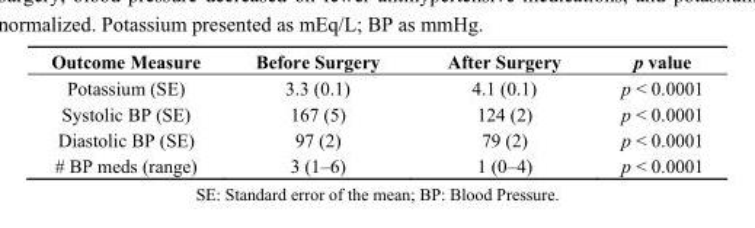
<table><thead><tr><td>Outcome Measure</td><td>Before Surgery</td><td>After Surgery</td><td>p value</td></tr></thead><tbody><tr><td>Potassium (SE)</td><td>3.3 (0.1)</td><td>4.1 (0.1)</td><td>p &lt; 0.0001</td></tr><tr><td>Systolic BP (SE)</td><td>167 (5)</td><td>124 (2)</td><td>p &lt; 0.0001</td></tr><tr><td>Diastolic BP (SE)</td><td>97 (2)</td><td>79 (2)</td><td>p &lt; 0.0001</td></tr><tr><td># BP meds (range)</td><td>3 (1–6)</td><td>1 (0–4)</td><td>p &lt; 0.0001</td></tr></tbody></table>